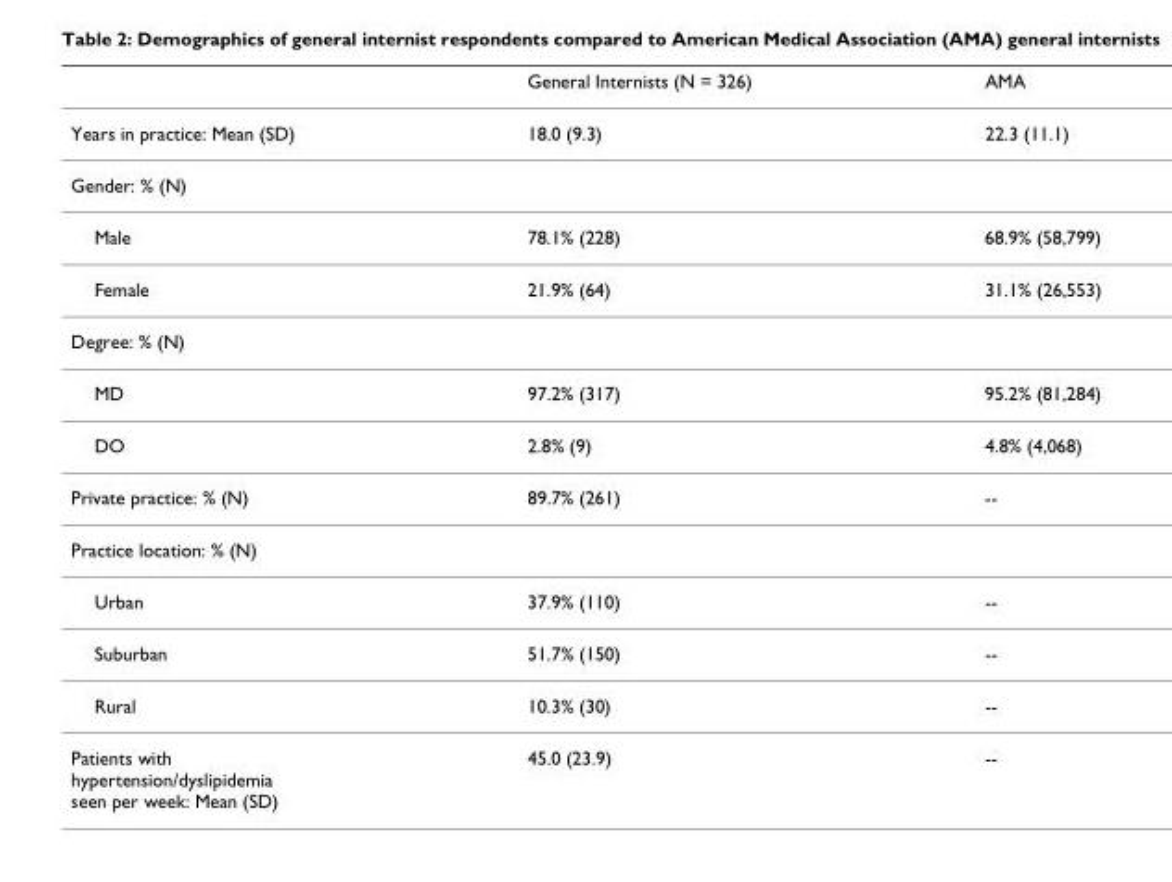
<table><thead><tr><td></td><td>General Internists (N = 326)</td><td>AMA</td></tr></thead><tbody><tr><td>Years in practice: Mean (SD)</td><td>18.0 (9.3)</td><td>22.3 (11.1)</td></tr><tr><td colspan="3">Gender: % (N)</td></tr><tr><td>Male</td><td>78.1% (228)</td><td>68.9% (58,799)</td></tr><tr><td>Female</td><td>21.9% (64)</td><td>31.1% (26,553)</td></tr><tr><td colspan="3">Degree: % (N)</td></tr><tr><td>MD</td><td>97.2% (317)</td><td>95.2% (81,284)</td></tr><tr><td>DO</td><td>2.8% (9)</td><td>4.8% (4,068)</td></tr><tr><td>Private practice: % (N)</td><td>89.7% (261)</td><td>--</td></tr><tr><td colspan="3">Practice location: % (N)</td></tr><tr><td>Urban</td><td>37.9% (110)</td><td>--</td></tr><tr><td>Suburban</td><td>51.7% (150)</td><td>--</td></tr><tr><td>Rural</td><td>10.3% (30)</td><td>--</td></tr><tr><td>Patients with hypertension/dyslipidemia seen per week: Mean (SD)</td><td>45.0 (23.9)</td><td>--</td></tr></tbody></table>